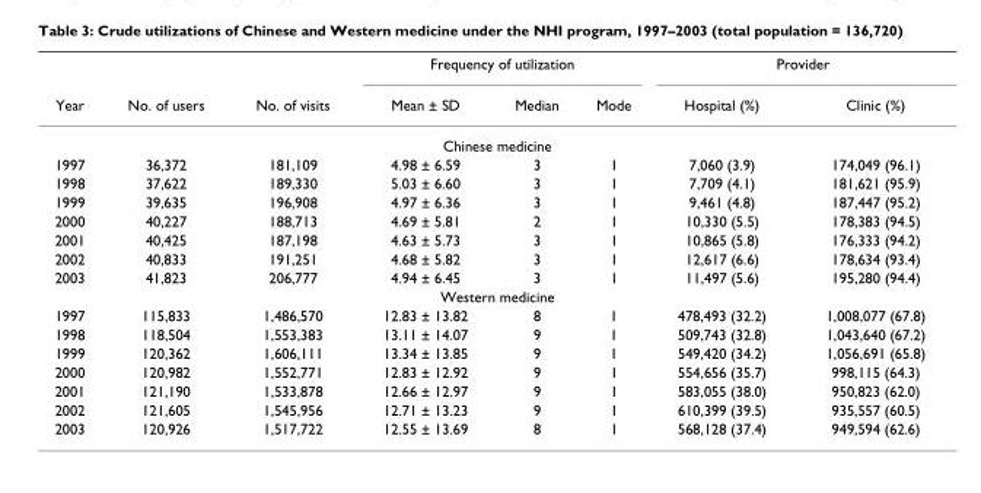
<table><thead><tr><td rowspan="2">Year</td><td rowspan="2">No. of users</td><td rowspan="2">No. of visits</td><td colspan="3">Frequency of utilization</td><td colspan="2">Provider</td></tr><tr><td>Mean ± SD</td><td>Median</td><td>Mode</td><td>Hospital (%)</td><td>Clinic (%)</td></tr></thead><tbody><tr><td colspan="8">Chinese medicine</td></tr><tr><td>1997</td><td>36,372</td><td>181,109</td><td>4.98 ± 6.59</td><td>3</td><td>1</td><td>7,060 (3.9)</td><td>174,049 (96.1)</td></tr><tr><td>1998</td><td>37,622</td><td>189,330</td><td>5.03 ± 6.60</td><td>3</td><td>1</td><td>7,709 (4.1)</td><td>181,621 (95.9)</td></tr><tr><td>1999</td><td>39,635</td><td>196,908</td><td>4.97 ± 6.36</td><td>3</td><td>1</td><td>9,461 (4.8)</td><td>187,447 (95.2)</td></tr><tr><td>2000</td><td>40,227</td><td>188,713</td><td>4.69 ± 5.81</td><td>2</td><td>1</td><td>10,330 (5.5)</td><td>178,383 (94.5)</td></tr><tr><td>2001</td><td>40,425</td><td>187,198</td><td>4.63 ± 5.73</td><td>3</td><td>1</td><td>10,865 (5.8)</td><td>176,333 (94.2)</td></tr><tr><td>2002</td><td>40,833</td><td>191,251</td><td>4.68 ± 5.82</td><td>3</td><td>1</td><td>12,617 (6.6)</td><td>178,634 (93.4)</td></tr><tr><td>2003</td><td>41,823</td><td>206,777</td><td>4.94 ± 6.45</td><td>3</td><td>1</td><td>11,497 (5.6)</td><td>195,280 (94.4)</td></tr><tr><td colspan="8">Western medicine</td></tr><tr><td>1997</td><td>115,833</td><td>1,486,570</td><td>12.83 ± 13.82</td><td>8</td><td>1</td><td>478,493 (32.2)</td><td>1,008,077 (67.8)</td></tr><tr><td>1998</td><td>118,504</td><td>1,553,383</td><td>13.11 ± 14.07</td><td>9</td><td>1</td><td>509,743 (32.8)</td><td>1,043,640 (67.2)</td></tr><tr><td>1999</td><td>120,362</td><td>1,606,111</td><td>13.34 ± 13.85</td><td>9</td><td>1</td><td>549,420 (34.2)</td><td>1,056,691 (65.8)</td></tr><tr><td>2000</td><td>120,982</td><td>1,552,771</td><td>12.83 ± 12.92</td><td>9</td><td>1</td><td>554,656 (35.7)</td><td>998,115 (64.3)</td></tr><tr><td>2001</td><td>121,190</td><td>1,533,878</td><td>12.66 ± 12.97</td><td>9</td><td>1</td><td>583,055 (38.0)</td><td>950,823 (62.0)</td></tr><tr><td>2002</td><td>121,605</td><td>1,545,956</td><td>12.71 ± 13.23</td><td>9</td><td>1</td><td>610,399 (39.5)</td><td>935,557 (60.5)</td></tr><tr><td>2003</td><td>120,926</td><td>1,517,722</td><td>12.55 ± 13.69</td><td>8</td><td>1</td><td>568,128 (37.4)</td><td>949,594 (62.6)</td></tr></tbody></table>